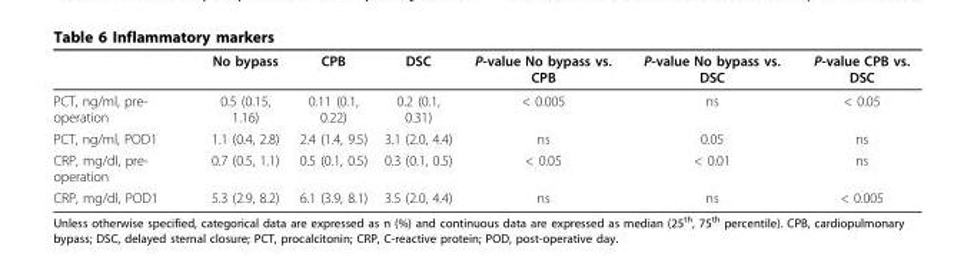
<table><thead><tr><td></td><td>No bypass</td><td>CPB</td><td>DSC</td><td>P-value No bypass vs. CPB</td><td>P-value No bypass vs. DSC</td><td>P-value CPB vs. DSC</td></tr></thead><tbody><tr><td>PCT, ng/ml, pre- operation</td><td>0.5 (0.15, 1.16)</td><td>0.11 (0.1, 0.22)</td><td>0.2 (0.1, 0.31)</td><td>&lt; 0.005</td><td>ns</td><td>&lt; 0.05</td></tr><tr><td>PCT, ng/ml, POD1</td><td>1.1 (0.4, 2.8)</td><td>2.4 (1.4, 9.5)</td><td>3.1 (2.0, 4.4)</td><td>ns</td><td>0.05</td><td>ns</td></tr><tr><td>CRP, mg/dl, pre- operation</td><td>0.7 (0.5, 1.1)</td><td>0.5 (0.1, 0.5)</td><td>0.3 (0.1, 0.5)</td><td>&lt; 0.05</td><td>&lt; 0.01</td><td>ns</td></tr><tr><td>CRP, mg/dl, POD1</td><td>5.3 (2.9, 8.2)</td><td>6.1 (3.9, 8.1)</td><td>3.5 (2.0, 4.4)</td><td>ns</td><td>ns</td><td>&lt; 0.005</td></tr></tbody></table>